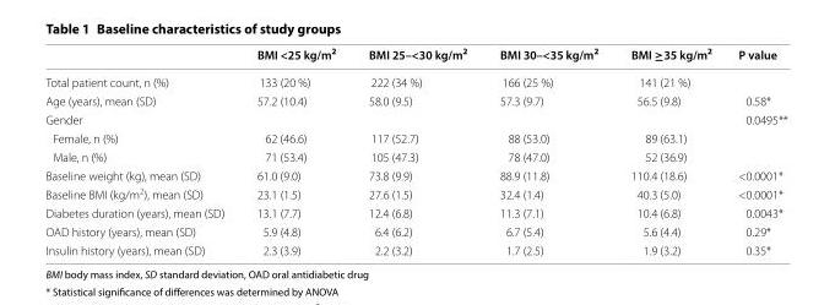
<table><thead><tr><td></td><td>BMI &lt;25 kg/m<sup>2</sup></td><td>BMI 25–&lt;30 kg/m<sup>2</sup></td><td>BMI 30–&lt;35 kg/m<sup>2</sup></td><td>BMI ≥35 kg/m<sup>2</sup></td><td>P value</td></tr></thead><tbody><tr><td>Total patient count, n (%)</td><td>133 (20 %)</td><td>222 (34 %)</td><td>166 (25 %)</td><td>141 (21 %)</td><td></td></tr><tr><td>Age (years), mean (SD)</td><td>57.2 (10.4)</td><td>58.0 (9.5)</td><td>57.3 (9.7)</td><td>56.5 (9.8)</td><td>0.58*</td></tr><tr><td colspan="5">Gender</td><td>0.0495**</td></tr><tr><td>Female, n (%)</td><td>62 (46.6)</td><td>117 (52.7)</td><td>88 (53.0)</td><td>89 (63.1)</td><td></td></tr><tr><td>Male, n (%)</td><td>71 (53.4)</td><td>105 (47.3)</td><td>78 (47.0)</td><td>52 (36.9)</td><td></td></tr><tr><td>Baseline weight (kg), mean (SD)</td><td>61.0 (9.0)</td><td>73.8 (9.9)</td><td>88.9 (11.8)</td><td>110.4 (18.6)</td><td>&lt;0.0001*</td></tr><tr><td>Baseline BMI (kg/m<sup>2</sup>), mean (SD)</td><td>23.1 (1.5)</td><td>27.6 (1.5)</td><td>32.4 (1.4)</td><td>40.3 (5.0)</td><td>&lt;0.0001*</td></tr><tr><td>Diabetes duration (years), mean (SD)</td><td>13.1 (7.7)</td><td>12.4 (6.8)</td><td>11.3 (7.1)</td><td>10.4 (6.8)</td><td>0.0043*</td></tr><tr><td>OAD history (years), mean (SD)</td><td>5.9 (4.8)</td><td>6.4 (6.2)</td><td>6.7 (5.4)</td><td>5.6 (4.4)</td><td>0.29*</td></tr><tr><td>Insulin history (years), mean (SD)</td><td>2.3 (3.9)</td><td>2.2 (3.2)</td><td>1.7 (2.5)</td><td>1.9 (3.2)</td><td>0.35*</td></tr></tbody></table>